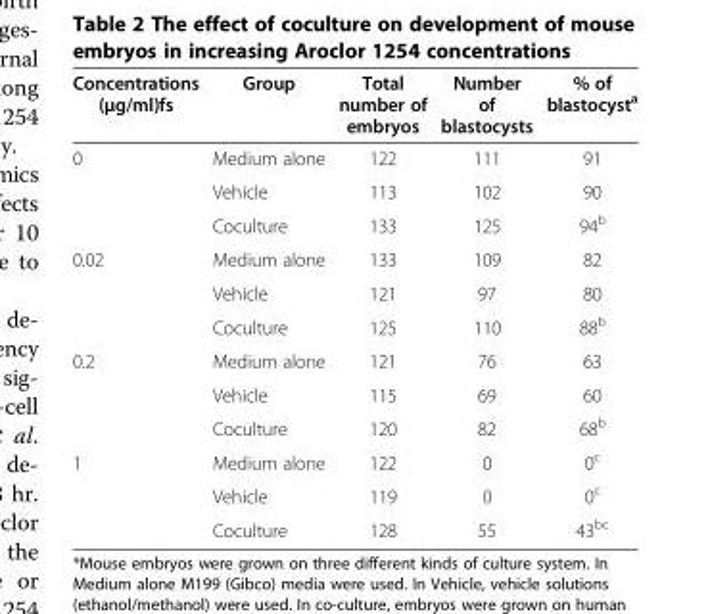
<table><thead><tr><td>Concentrations (μg/ml)fs</td><td>Group</td><td>Total number of embryos</td><td>Number of blastocysts</td><td>% of blastocyst<sup>a</sup></td></tr></thead><tbody><tr><td rowspan="3">0</td><td>Medium alone</td><td>122</td><td>111</td><td>91</td></tr><tr><td>Vehicle</td><td>113</td><td>102</td><td>90</td></tr><tr><td>Coculture</td><td>133</td><td>125</td><td>94<sup>b</sup></td></tr><tr><td rowspan="3">0.02</td><td>Medium alone</td><td>133</td><td>109</td><td>82</td></tr><tr><td>Vehicle</td><td>121</td><td>97</td><td>80</td></tr><tr><td>Coculture</td><td>125</td><td>110</td><td>88<sup>b</sup></td></tr><tr><td rowspan="3">0.2</td><td>Medium alone</td><td>121</td><td>76</td><td>63</td></tr><tr><td>Vehicle</td><td>115</td><td>69</td><td>60</td></tr><tr><td>Coculture</td><td>120</td><td>82</td><td>68<sup>b</sup></td></tr><tr><td rowspan="3">1</td><td>Medium alone</td><td>122</td><td>0</td><td>0<sup>c</sup></td></tr><tr><td>Vehicle</td><td>119</td><td>0</td><td>0<sup>c</sup></td></tr><tr><td>Coculture</td><td>128</td><td>55</td><td>43<sup>bc</sup></td></tr></tbody></table>